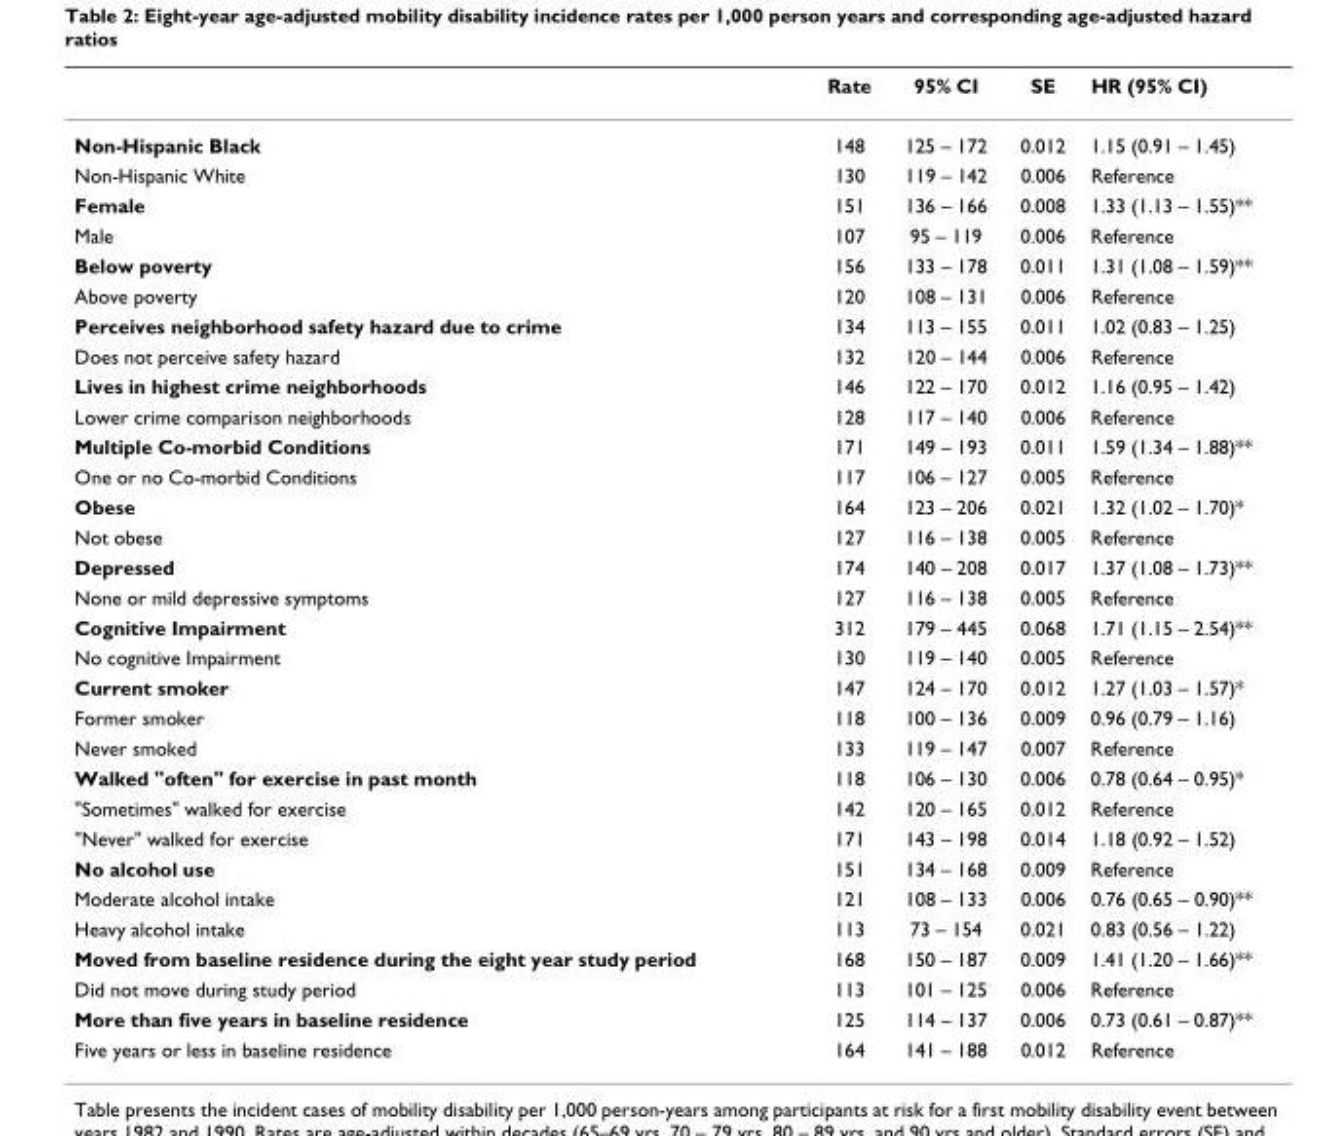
<table><thead><tr><td></td><td>Rate</td><td>95% CI</td><td>SE</td><td>HR (95% CI)</td></tr></thead><tbody><tr><td>Non-Hispanic Black</td><td>148</td><td>125 – 172</td><td>0.012</td><td>1.15 (0.91 – 1.45)</td></tr><tr><td>Non-Hispanic White</td><td>130</td><td>119 – 142</td><td>0.006</td><td>Reference</td></tr><tr><td>Female</td><td>151</td><td>136 – 166</td><td>0.008</td><td>1.33 (1.13 – 1.55)**</td></tr><tr><td>Male</td><td>107</td><td>95 – 119</td><td>0.006</td><td>Reference</td></tr><tr><td>Below poverty</td><td>156</td><td>133 – 178</td><td>0.011</td><td>1.31 (1.08 – 1.59)**</td></tr><tr><td>Above poverty</td><td>120</td><td>108 – 131</td><td>0.006</td><td>Reference</td></tr><tr><td>Perceives neighborhood safety hazard due to crime</td><td>134</td><td>113 – 155</td><td>0.011</td><td>1.02 (0.83 – 1.25)</td></tr><tr><td>Does not perceive safety hazard</td><td>132</td><td>120 – 144</td><td>0.006</td><td>Reference</td></tr><tr><td>Lives in highest crime neighborhoods</td><td>146</td><td>122 – 170</td><td>0.012</td><td>1.16 (0.95 – 1.42)</td></tr><tr><td>Lower crime comparison neighborhoods</td><td>128</td><td>117 – 140</td><td>0.006</td><td>Reference</td></tr><tr><td>Multiple Co-morbid Conditions</td><td>171</td><td>149 – 193</td><td>0.011</td><td>1.59 (1.34 – 1.88)**</td></tr><tr><td>One or no Co-morbid Conditions</td><td>117</td><td>106 – 127</td><td>0.005</td><td>Reference</td></tr><tr><td>Obese</td><td>164</td><td>123 – 206</td><td>0.021</td><td>1.32 (1.02 – 1.70)*</td></tr><tr><td>Not obese</td><td>127</td><td>116 – 138</td><td>0.005</td><td>Reference</td></tr><tr><td>Depressed</td><td>174</td><td>140 – 208</td><td>0.017</td><td>1.37 (1.08 – 1.73)**</td></tr><tr><td>None or mild depressive symptoms</td><td>127</td><td>116 – 138</td><td>0.005</td><td>Reference</td></tr><tr><td>Cognitive Impairment</td><td>312</td><td>179 – 445</td><td>0.068</td><td>1.71 (1.15 – 2.54)**</td></tr><tr><td>No cognitive Impairment</td><td>130</td><td>119 – 140</td><td>0.005</td><td>Reference</td></tr><tr><td>Current smoker</td><td>147</td><td>124 – 170</td><td>0.012</td><td>1.27 (1.03 – 1.57)*</td></tr><tr><td>Former smoker</td><td>118</td><td>100 – 136</td><td>0.009</td><td>0.96 (0.79 – 1.16)</td></tr><tr><td>Never smoked</td><td>133</td><td>119 – 147</td><td>0.007</td><td>Reference</td></tr><tr><td>Walked &quot;often&quot; for exercise in past month</td><td>118</td><td>106 – 130</td><td>0.006</td><td>0.78 (0.64 – 0.95)*</td></tr><tr><td>&quot;Sometimes&quot; walked for exercise</td><td>142</td><td>120 – 165</td><td>0.012</td><td>Reference</td></tr><tr><td>&quot;Never&quot; walked for exercise</td><td>171</td><td>143 – 198</td><td>0.014</td><td>1.18 (0.92 – 1.52)</td></tr><tr><td>No alcohol use</td><td>151</td><td>134 – 168</td><td>0.009</td><td>Reference</td></tr><tr><td>Moderate alcohol intake</td><td>121</td><td>108 – 133</td><td>0.006</td><td>0.76 (0.65 – 0.90)**</td></tr><tr><td>Heavy alcohol intake</td><td>113</td><td>73 – 154</td><td>0.021</td><td>0.83 (0.56 – 1.22)</td></tr><tr><td>Moved from baseline residence during the eight year study period</td><td>168</td><td>150 – 187</td><td>0.009</td><td>1.41 (1.20 – 1.66)**</td></tr><tr><td>Did not move during study period</td><td>113</td><td>101 – 125</td><td>0.006</td><td>Reference</td></tr><tr><td>More than five years in baseline residence</td><td>125</td><td>114 – 137</td><td>0.006</td><td>0.73 (0.61 – 0.87)**</td></tr><tr><td>Five years or less in baseline residence</td><td>164</td><td>141 – 188</td><td>0.012</td><td>Reference</td></tr></tbody></table>